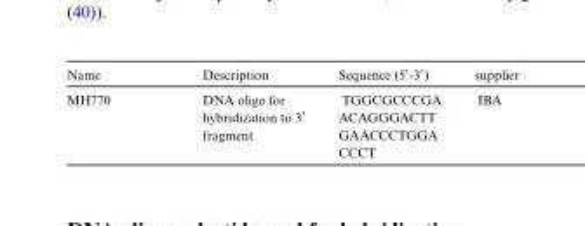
<table><thead><tr><td>Name</td><td>Description</td><td>Sequence (5′-3′)</td><td>supplier</td></tr></thead><tbody><tr><td>MH770</td><td>DNA oligo for hybridization to 3′ fragment</td><td>TGGCGCCCGA ACAGGGACTT GAACCCTGGA CCCT</td><td>IBA</td></tr></tbody></table>